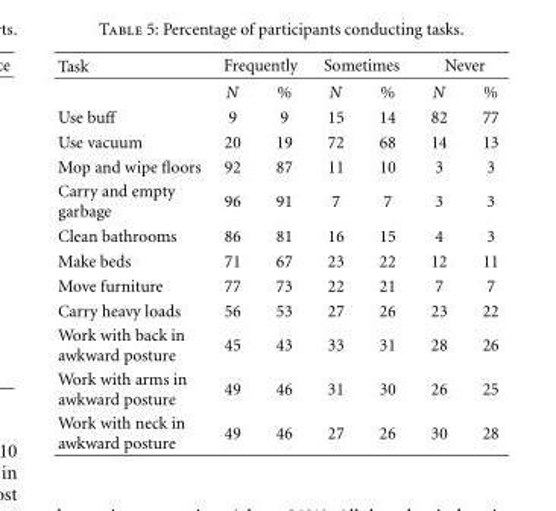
<table><thead><tr><td rowspan="2">Task</td><td colspan="2">Frequently</td><td colspan="2">Sometimes</td><td colspan="2">Never</td></tr><tr><td>N</td><td>%</td><td>N</td><td>%</td><td>N</td><td>%</td></tr></thead><tbody><tr><td>Use buff</td><td>9</td><td>9</td><td>15</td><td>14</td><td>82</td><td>77</td></tr><tr><td>Use vacuum</td><td>20</td><td>19</td><td>72</td><td>68</td><td>14</td><td>13</td></tr><tr><td>Mop and wipe floors</td><td>92</td><td>87</td><td>11</td><td>10</td><td>3</td><td>3</td></tr><tr><td>Carry and empty garbage</td><td>96</td><td>91</td><td>7</td><td>7</td><td>3</td><td>3</td></tr><tr><td>Clean bathrooms</td><td>86</td><td>81</td><td>16</td><td>15</td><td>4</td><td>3</td></tr><tr><td>Make beds</td><td>71</td><td>67</td><td>23</td><td>22</td><td>12</td><td>11</td></tr><tr><td>Move furniture</td><td>77</td><td>73</td><td>22</td><td>21</td><td>7</td><td>7</td></tr><tr><td>Carry heavy loads</td><td>56</td><td>53</td><td>27</td><td>26</td><td>23</td><td>22</td></tr><tr><td>Work with back in awkward posture</td><td>45</td><td>43</td><td>33</td><td>31</td><td>28</td><td>26</td></tr><tr><td>Work with arms in awkward posture</td><td>49</td><td>46</td><td>31</td><td>30</td><td>26</td><td>25</td></tr><tr><td>Work with neck in awkward posture</td><td>49</td><td>46</td><td>27</td><td>26</td><td>30</td><td>28</td></tr></tbody></table>